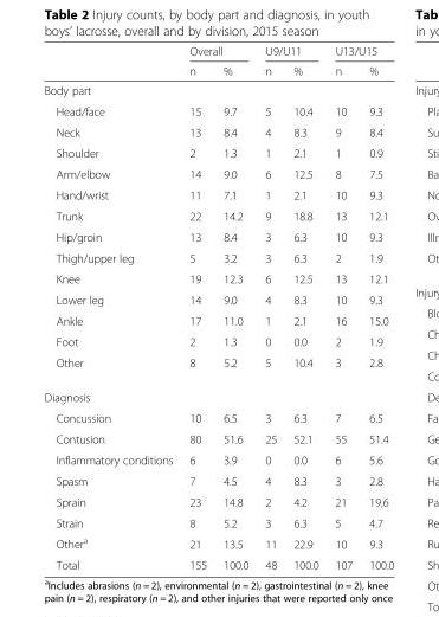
<table><thead><tr><td rowspan="2"></td><td colspan="2">Overall</td><td colspan="2">U9/U11</td><td colspan="2">U13/U15</td></tr><tr><td>n</td><td>%</td><td>n</td><td>%</td><td>n</td><td>%</td></tr></thead><tbody><tr><td colspan="7">Body part</td></tr><tr><td>Head/face</td><td>15</td><td>9.7</td><td>5</td><td>10.4</td><td>10</td><td>9.3</td></tr><tr><td>Neck</td><td>13</td><td>8.4</td><td>4</td><td>8.3</td><td>9</td><td>8.4</td></tr><tr><td>Shoulder</td><td>2</td><td>1.3</td><td>1</td><td>2.1</td><td>1</td><td>0.9</td></tr><tr><td>Arm/elbow</td><td>14</td><td>9.0</td><td>6</td><td>12.5</td><td>8</td><td>7.5</td></tr><tr><td>Hand/wrist</td><td>11</td><td>7.1</td><td>1</td><td>2.1</td><td>10</td><td>9.3</td></tr><tr><td>Trunk</td><td>22</td><td>14.2</td><td>9</td><td>18.8</td><td>13</td><td>12.1</td></tr><tr><td>Hip/groin</td><td>13</td><td>8.4</td><td>3</td><td>6.3</td><td>10</td><td>9.3</td></tr><tr><td>Thigh/upper leg</td><td>5</td><td>3.2</td><td>3</td><td>6.3</td><td>2</td><td>1.9</td></tr><tr><td>Knee</td><td>19</td><td>12.3</td><td>6</td><td>12.5</td><td>13</td><td>12.1</td></tr><tr><td>Lower leg</td><td>14</td><td>9.0</td><td>4</td><td>8.3</td><td>10</td><td>9.3</td></tr><tr><td>Ankle</td><td>17</td><td>11.0</td><td>1</td><td>2.1</td><td>16</td><td>15.0</td></tr><tr><td>Foot</td><td>2</td><td>1.3</td><td>0</td><td>0.0</td><td>2</td><td>1.9</td></tr><tr><td>Other</td><td>8</td><td>5.2</td><td>5</td><td>10.4</td><td>3</td><td>2.8</td></tr><tr><td colspan="7">Diagnosis</td></tr><tr><td>Concussion</td><td>10</td><td>6.5</td><td>3</td><td>6.3</td><td>7</td><td>6.5</td></tr><tr><td>Contusion</td><td>80</td><td>51.6</td><td>25</td><td>52.1</td><td>55</td><td>51.4</td></tr><tr><td>Inflammatory conditions</td><td>6</td><td>3.9</td><td>0</td><td>0.0</td><td>6</td><td>5.6</td></tr><tr><td>Spasm</td><td>7</td><td>4.5</td><td>4</td><td>8.3</td><td>3</td><td>2.8</td></tr><tr><td>Sprain</td><td>23</td><td>14.8</td><td>2</td><td>4.2</td><td>21</td><td>19.6</td></tr><tr><td>Strain</td><td>8</td><td>5.2</td><td>3</td><td>6.3</td><td>5</td><td>4.7</td></tr><tr><td>Other<sup>a</sup></td><td>21</td><td>13.5</td><td>11</td><td>22.9</td><td>10</td><td>9.3</td></tr><tr><td>Total</td><td>155</td><td>100.0</td><td>48</td><td>100.0</td><td>107</td><td>100.0</td></tr></tbody></table>